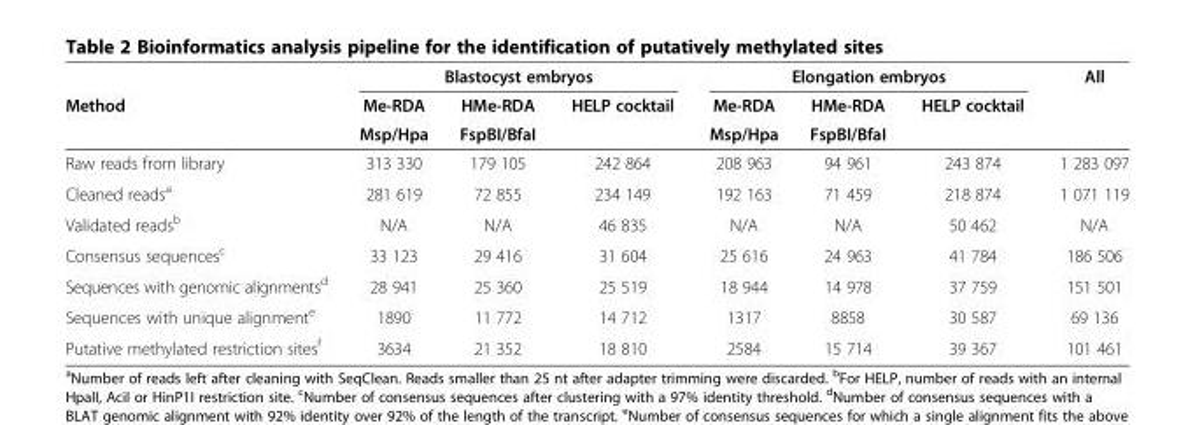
<table><thead><tr><td rowspan="3">Method</td><td colspan="3">Blastocyst embryos</td><td colspan="3">Elongation embryos</td><td rowspan="3">All</td></tr><tr><td rowspan="2">Me-RDA Msp/Hpa</td><td rowspan="2">HMe-RDA FspBI/BfaI</td><td rowspan="2">HELP cocktail</td><td rowspan="2">Me-RDA Msp/Hpa</td><td rowspan="2">HMe-RDA FspBI/BfaI</td><td rowspan="2">HELP cocktail</td></tr><tr></tr></thead><tbody><tr><td>Raw reads from library</td><td>313 330</td><td>179 105</td><td>242 864</td><td>208 963</td><td>94 961</td><td>243 874</td><td>1 283 097</td></tr><tr><td>Cleaned reads<sup>a</sup></td><td>281 619</td><td>72 855</td><td>234 149</td><td>192 163</td><td>71 459</td><td>218 874</td><td>1 071 119</td></tr><tr><td>Validated reads<sup>b</sup></td><td>N/A</td><td>N/A</td><td>46 835</td><td>N/A</td><td>N/A</td><td>50 462</td><td>N/A</td></tr><tr><td>Consensus sequences<sup>c</sup></td><td>33 123</td><td>29 416</td><td>31 604</td><td>25 616</td><td>24 963</td><td>41 784</td><td>186 506</td></tr><tr><td>Sequences with genomic alignments<sup>d</sup></td><td>28 941</td><td>25 360</td><td>25 519</td><td>18 944</td><td>14 978</td><td>37 759</td><td>151 501</td></tr><tr><td>Sequences with unique alignment<sup>e</sup></td><td>1890</td><td>11 772</td><td>14 712</td><td>1317</td><td>8858</td><td>30 587</td><td>69 136</td></tr><tr><td>Putative methylated restriction sites<sup>f</sup></td><td>3634</td><td>21 352</td><td>18 810</td><td>2584</td><td>15 714</td><td>39 367</td><td>101 461</td></tr></tbody></table>